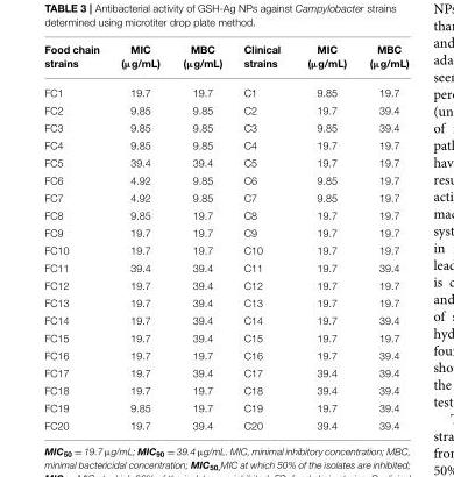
<table><thead><tr><td>Food chain strains</td><td>MIC (µg/mL)</td><td>MBC (µg/mL)</td><td>Clinical strains</td><td>MIC (µg/mL)</td><td>MBC (µg/mL)</td></tr></thead><tbody><tr><td>FC1</td><td>19.7</td><td>19.7</td><td>C1</td><td>9.85</td><td>19.7</td></tr><tr><td>FC2</td><td>9.85</td><td>9.85</td><td>C2</td><td>19.7</td><td>39.4</td></tr><tr><td>FC3</td><td>9.85</td><td>9.85</td><td>C3</td><td>9.85</td><td>39.4</td></tr><tr><td>FC4</td><td>9.85</td><td>9.85</td><td>C4</td><td>19.7</td><td>19.7</td></tr><tr><td>FC5</td><td>39.4</td><td>39.4</td><td>C5</td><td>19.7</td><td>19.7</td></tr><tr><td>FC6</td><td>4.92</td><td>9.85</td><td>C6</td><td>9.85</td><td>19.7</td></tr><tr><td>FC7</td><td>4.92</td><td>9.85</td><td>C7</td><td>9.85</td><td>19.7</td></tr><tr><td>FC8</td><td>9.85</td><td>19.7</td><td>C8</td><td>19.7</td><td>19.7</td></tr><tr><td>FC9</td><td>19.7</td><td>19.7</td><td>C9</td><td>19.7</td><td>19.7</td></tr><tr><td>FC10</td><td>19.7</td><td>19.7</td><td>C10</td><td>19.7</td><td>19.7</td></tr><tr><td>FC11</td><td>39.4</td><td>39.4</td><td>C11</td><td>19.7</td><td>39.4</td></tr><tr><td>FC12</td><td>19.7</td><td>39.4</td><td>C12</td><td>19.7</td><td>19.7</td></tr><tr><td>FC13</td><td>19.7</td><td>39.4</td><td>C13</td><td>19.7</td><td>19.7</td></tr><tr><td>FC14</td><td>19.7</td><td>39.4</td><td>C14</td><td>19.7</td><td>39.4</td></tr><tr><td>FC15</td><td>19.7</td><td>39.4</td><td>C15</td><td>19.7</td><td>19.7</td></tr><tr><td>FC16</td><td>19.7</td><td>19.7</td><td>C16</td><td>19.7</td><td>39.4</td></tr><tr><td>FC17</td><td>19.7</td><td>39.4</td><td>C17</td><td>39.4</td><td>39.4</td></tr><tr><td>FC18</td><td>19.7</td><td>19.7</td><td>C18</td><td>39.4</td><td>39.4</td></tr><tr><td>FC19</td><td>9.85</td><td>19.7</td><td>C19</td><td>19.7</td><td>39.4</td></tr><tr><td>FC20</td><td>19.7</td><td>39.4</td><td>C20</td><td>39.4</td><td>39.4</td></tr></tbody></table>